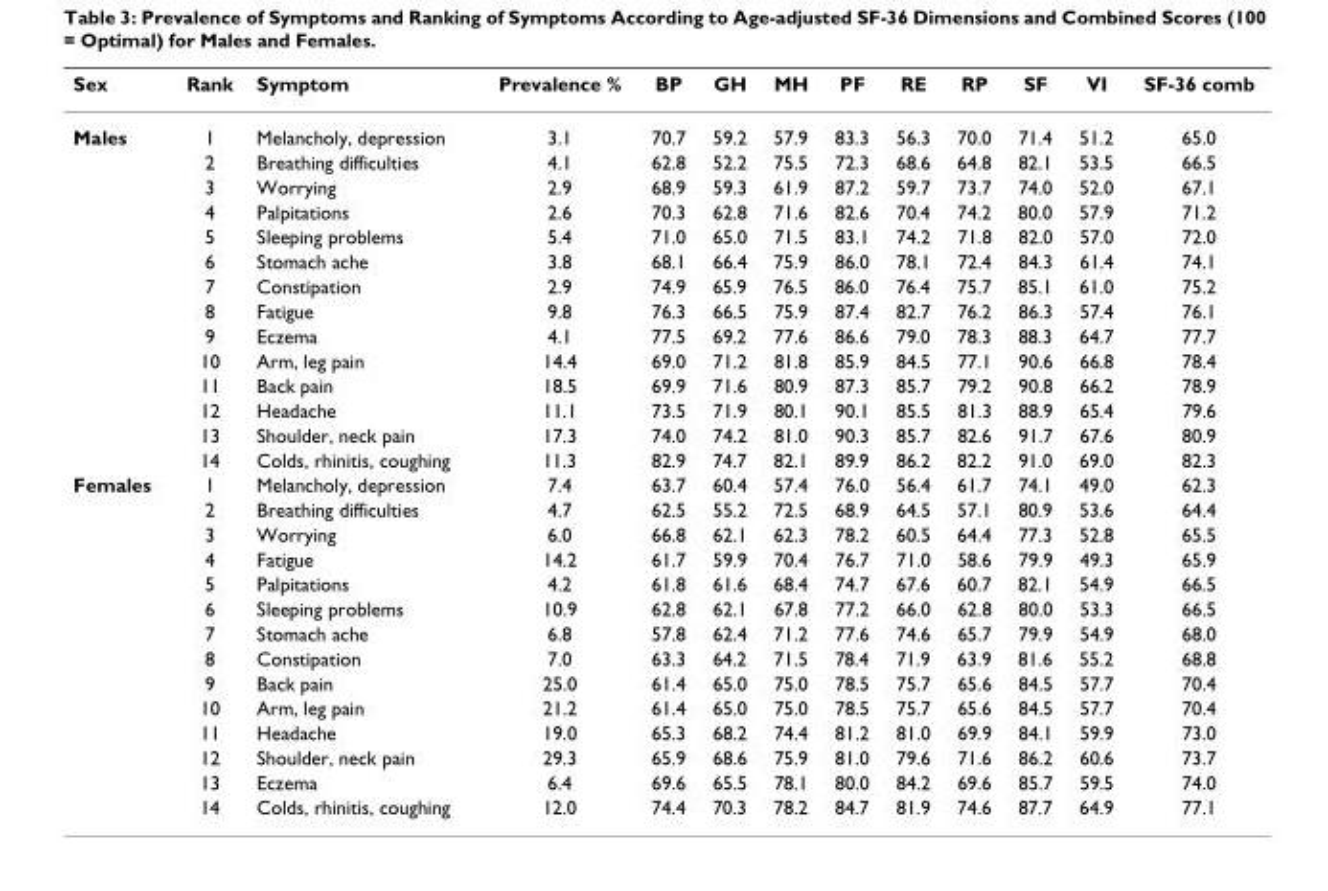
<table><thead><tr><td>Sex</td><td>Rank</td><td>Symptom</td><td>Prevalence %</td><td>BP</td><td>GH</td><td>MH</td><td>PF</td><td>RE</td><td>RP</td><td>SF</td><td>VI</td><td>SF-36 comb</td></tr></thead><tbody><tr><td rowspan="14">Males</td><td>1</td><td>Melancholy, depression</td><td>3.1</td><td>70.7</td><td>59.2</td><td>57.9</td><td>83.3</td><td>56.3</td><td>70.0</td><td>71.4</td><td>51.2</td><td>65.0</td></tr><tr><td>2</td><td>Breathing difficulties</td><td>4.1</td><td>62.8</td><td>52.2</td><td>75.5</td><td>72.3</td><td>68.6</td><td>64.8</td><td>82.1</td><td>53.5</td><td>66.5</td></tr><tr><td>3</td><td>Worrying</td><td>2.9</td><td>68.9</td><td>59.3</td><td>61.9</td><td>87.2</td><td>59.7</td><td>73.7</td><td>74.0</td><td>52.0</td><td>67.1</td></tr><tr><td>4</td><td>Palpitations</td><td>2.6</td><td>70.3</td><td>62.8</td><td>71.6</td><td>82.6</td><td>70.4</td><td>74.2</td><td>80.0</td><td>57.9</td><td>71.2</td></tr><tr><td>5</td><td>Sleeping problems</td><td>5.4</td><td>71.0</td><td>65.0</td><td>71.5</td><td>83.1</td><td>74.2</td><td>71.8</td><td>82.0</td><td>57.0</td><td>72.0</td></tr><tr><td>6</td><td>Stomach ache</td><td>3.8</td><td>68.1</td><td>66.4</td><td>75.9</td><td>86.0</td><td>78.1</td><td>72.4</td><td>84.3</td><td>61.4</td><td>74.1</td></tr><tr><td>7</td><td>Constipation</td><td>2.9</td><td>74.9</td><td>65.9</td><td>76.5</td><td>86.0</td><td>76.4</td><td>75.7</td><td>85.1</td><td>61.0</td><td>75.2</td></tr><tr><td>8</td><td>Fatigue</td><td>9.8</td><td>76.3</td><td>66.5</td><td>75.9</td><td>87.4</td><td>82.7</td><td>76.2</td><td>86.3</td><td>57.4</td><td>76.1</td></tr><tr><td>9</td><td>Eczema</td><td>4.1</td><td>77.5</td><td>69.2</td><td>77.6</td><td>86.6</td><td>79.0</td><td>78.3</td><td>88.3</td><td>64.7</td><td>77.7</td></tr><tr><td>10</td><td>Arm, leg pain</td><td>14.4</td><td>69.0</td><td>71.2</td><td>81.8</td><td>85.9</td><td>84.5</td><td>77.1</td><td>90.6</td><td>66.8</td><td>78.4</td></tr><tr><td>11</td><td>Back pain</td><td>18.5</td><td>69.9</td><td>71.6</td><td>80.9</td><td>87.3</td><td>85.7</td><td>79.2</td><td>90.8</td><td>66.2</td><td>78.9</td></tr><tr><td>12</td><td>Headache</td><td>11.1</td><td>73.5</td><td>71.9</td><td>80.1</td><td>90.1</td><td>85.5</td><td>81.3</td><td>88.9</td><td>65.4</td><td>79.6</td></tr><tr><td>13</td><td>Shoulder, neck pain</td><td>17.3</td><td>74.0</td><td>74.2</td><td>81.0</td><td>90.3</td><td>85.7</td><td>82.6</td><td>91.7</td><td>67.6</td><td>80.9</td></tr><tr><td>14</td><td>Colds, rhinitis, coughing</td><td>11.3</td><td>82.9</td><td>74.7</td><td>82.1</td><td>89.9</td><td>86.2</td><td>82.2</td><td>91.0</td><td>69.0</td><td>82.3</td></tr><tr><td rowspan="14">Females</td><td>1</td><td>Melancholy, depression</td><td>7.4</td><td>63.7</td><td>60.4</td><td>57.4</td><td>76.0</td><td>56.4</td><td>61.7</td><td>74.1</td><td>49.0</td><td>62.3</td></tr><tr><td>2</td><td>Breathing difficulties</td><td>4.7</td><td>62.5</td><td>55.2</td><td>72.5</td><td>68.9</td><td>64.5</td><td>57.1</td><td>80.9</td><td>53.6</td><td>64.4</td></tr><tr><td>3</td><td>Worrying</td><td>6.0</td><td>66.8</td><td>62.1</td><td>62.3</td><td>78.2</td><td>60.5</td><td>64.4</td><td>77.3</td><td>52.8</td><td>65.5</td></tr><tr><td>4</td><td>Fatigue</td><td>14.2</td><td>61.7</td><td>59.9</td><td>70.4</td><td>76.7</td><td>71.0</td><td>58.6</td><td>79.9</td><td>49.3</td><td>65.9</td></tr><tr><td>5</td><td>Palpitations</td><td>4.2</td><td>61.8</td><td>61.6</td><td>68.4</td><td>74.7</td><td>67.6</td><td>60.7</td><td>82.1</td><td>54.9</td><td>66.5</td></tr><tr><td>6</td><td>Sleeping problems</td><td>10.9</td><td>62.8</td><td>62.1</td><td>67.8</td><td>77.2</td><td>66.0</td><td>62.8</td><td>80.0</td><td>53.3</td><td>66.5</td></tr><tr><td>7</td><td>Stomach ache</td><td>6.8</td><td>57.8</td><td>62.4</td><td>71.2</td><td>77.6</td><td>74.6</td><td>65.7</td><td>79.9</td><td>54.9</td><td>68.0</td></tr><tr><td>8</td><td>Constipation</td><td>7.0</td><td>63.3</td><td>64.2</td><td>71.5</td><td>78.4</td><td>71.9</td><td>63.9</td><td>81.6</td><td>55.2</td><td>68.8</td></tr><tr><td>9</td><td>Back pain</td><td>25.0</td><td>61.4</td><td>65.0</td><td>75.0</td><td>78.5</td><td>75.7</td><td>65.6</td><td>84.5</td><td>57.7</td><td>70.4</td></tr><tr><td>10</td><td>Arm, leg pain</td><td>21.2</td><td>61.4</td><td>65.0</td><td>75.0</td><td>78.5</td><td>75.7</td><td>65.6</td><td>84.5</td><td>57.7</td><td>70.4</td></tr><tr><td>11</td><td>Headache</td><td>19.0</td><td>65.3</td><td>68.2</td><td>74.4</td><td>81.2</td><td>81.0</td><td>69.9</td><td>84.1</td><td>59.9</td><td>73.0</td></tr><tr><td>12</td><td>Shoulder, neck pain</td><td>29.3</td><td>65.9</td><td>68.6</td><td>75.9</td><td>81.0</td><td>79.6</td><td>71.6</td><td>86.2</td><td>60.6</td><td>73.7</td></tr><tr><td>13</td><td>Eczema</td><td>6.4</td><td>69.6</td><td>65.5</td><td>78.1</td><td>80.0</td><td>84.2</td><td>69.6</td><td>85.7</td><td>59.5</td><td>74.0</td></tr><tr><td>14</td><td>Colds, rhinitis, coughing</td><td>12.0</td><td>74.4</td><td>70.3</td><td>78.2</td><td>84.7</td><td>81.9</td><td>74.6</td><td>87.7</td><td>64.9</td><td>77.1</td></tr></tbody></table>